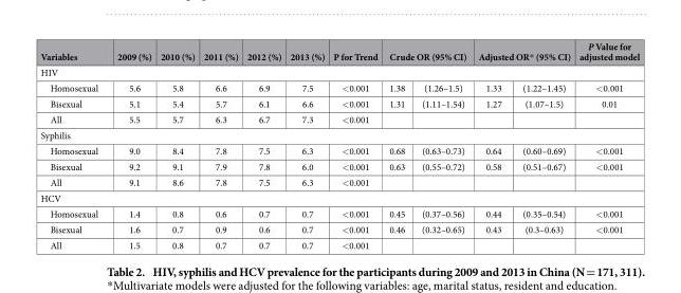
<table><thead><tr><td>Variables</td><td>2009 (%)</td><td>2010 (%)</td><td>2011 (%)</td><td>2012 (%)</td><td>2013 (%)</td><td>P for Trend</td><td colspan="2">Crude OR (95% CI)</td><td colspan="2">Adjusted OR* (95% CI)</td><td>P Value for adjusted model</td></tr><tr><td colspan="12">HIV</td></tr><tr><td>Homosexual</td><td>5.6</td><td>5.8</td><td>6.6</td><td>6.9</td><td>7.5</td><td>&lt; 0.001</td><td>1.38</td><td>(1.26–1.5)</td><td>1.33</td><td>(1.22–1.45)</td><td>&lt; 0.001</td></tr></thead><tbody><tr><td>Bisexual</td><td>5.1</td><td>5.4</td><td>5.7</td><td>6.1</td><td>6.6</td><td>&lt; 0.001</td><td>1.31</td><td>(1.11–1.54)</td><td>1.27</td><td>(1.07–1.5)</td><td>0.01</td></tr><tr><td>All</td><td>5.5</td><td>5.7</td><td>6.3</td><td>6.7</td><td>7.3</td><td>&lt; 0.001</td><td></td><td></td><td></td><td></td><td></td></tr><tr><td colspan="12">Syphilis</td></tr><tr><td>Homosexual</td><td>9.0</td><td>8.4</td><td>7.8</td><td>7.5</td><td>6.3</td><td>&lt; 0.001</td><td>0.68</td><td>(0.63–0.73)</td><td>0.64</td><td>(0.60–0.69)</td><td>&lt; 0.001</td></tr><tr><td>Bisexual</td><td>9.2</td><td>9.1</td><td>7.9</td><td>7.8</td><td>6.0</td><td>&lt; 0.001</td><td>0.63</td><td>(0.55–0.72)</td><td>0.58</td><td>(0.51–0.67)</td><td>&lt; 0.001</td></tr><tr><td>All</td><td>9.1</td><td>8.6</td><td>7.8</td><td>7.5</td><td>6.3</td><td>&lt; 0.001</td><td></td><td></td><td></td><td></td><td></td></tr><tr><td colspan="12">HCV</td></tr><tr><td>Homosexual</td><td>1.4</td><td>0.8</td><td>0.6</td><td>0.7</td><td>0.7</td><td>&lt; 0.001</td><td>0.45</td><td>(0.37–0.56)</td><td>0.44</td><td>(0.35–0.54)</td><td>&lt; 0.001</td></tr><tr><td>Bisexual</td><td>1.6</td><td>0.7</td><td>0.9</td><td>0.6</td><td>0.7</td><td>&lt; 0.001</td><td>0.46</td><td>(0.32–0.65)</td><td>0.43</td><td>(0.3–0.63)</td><td>&lt; 0.001</td></tr><tr><td>All</td><td>1.5</td><td>0.8</td><td>0.7</td><td>0.7</td><td>0.7</td><td>&lt; 0.001</td><td></td><td></td><td></td><td></td><td></td></tr></tbody></table>